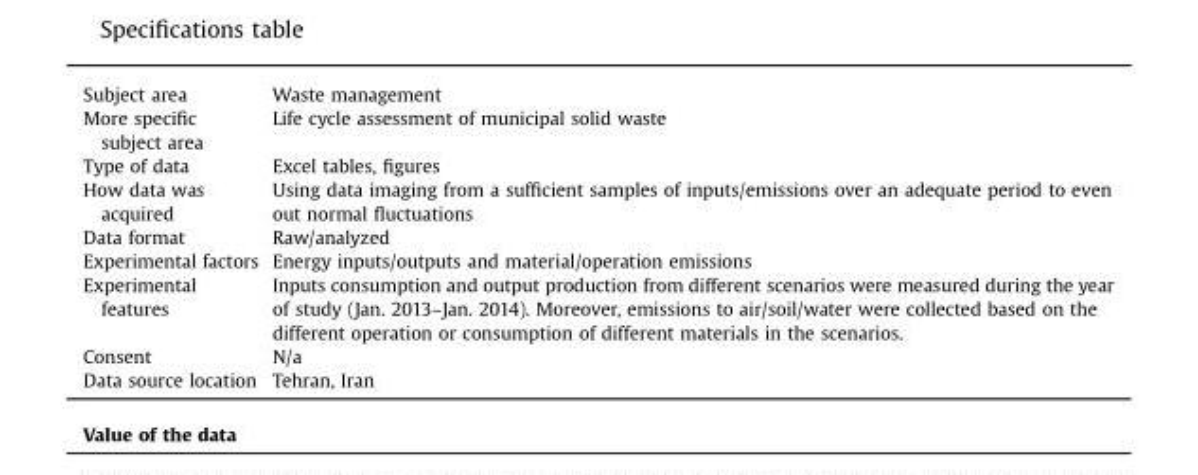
<table><tbody><tr><td>Subject area</td><td>Waste management</td></tr><tr><td>More specific subject area</td><td>Life cycle assessment of municipal solid waste</td></tr><tr><td>Type of data</td><td>Excel tables, figures</td></tr><tr><td>How data was acquired</td><td>Using data imaging from a sufficient samples of inputs/emissions over an adequate period to even out normal fluctuations</td></tr><tr><td>Data format</td><td>Raw/analyzed</td></tr><tr><td>Experimental factors</td><td>Energy inputs/outputs and material/operation emissions</td></tr><tr><td>Experimental features</td><td>Inputs consumption and output production from different scenarios were measured during the year of study (Jan. 2013–Jan. 2014). Moreover, emissions to air/soil/water were collected based on the different operation or consumption of different materials in the scenarios.</td></tr><tr><td>Consent</td><td>N/a</td></tr><tr><td>Data source location</td><td>Tehran, Iran</td></tr></tbody></table>